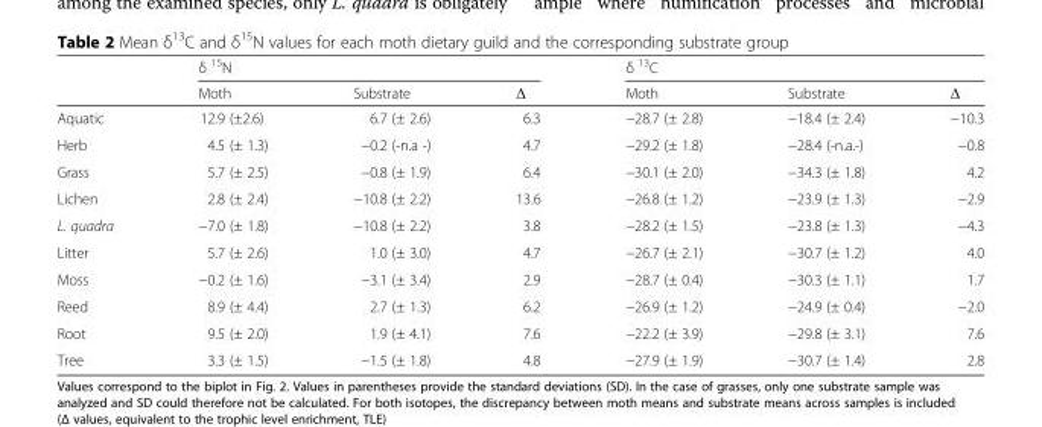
<table><thead><tr><td rowspan="2"></td><td colspan="3">δ <sup>15</sup>N</td><td colspan="3">δ <sup>13</sup>C</td></tr><tr><td>Moth</td><td>Substrate</td><td>Δ</td><td>Moth</td><td>Substrate</td><td>Δ</td></tr></thead><tbody><tr><td>Aquatic</td><td>12.9 (±2.6)</td><td>6.7 (± 2.6)</td><td>6.3</td><td>−28.7 (± 2.8)</td><td>−18.4 (± 2.4)</td><td>−10.3</td></tr><tr><td>Herb</td><td>4.5 (± 1.3)</td><td>−0.2 (-n.a -)</td><td>4.7</td><td>−29.2 (± 1.8)</td><td>−28.4 (-n.a.-)</td><td>−0.8</td></tr><tr><td>Grass</td><td>5.7 (± 2.5)</td><td>−0.8 (± 1.9)</td><td>6.4</td><td>−30.1 (± 2.0)</td><td>−34.3 (± 1.8)</td><td>4.2</td></tr><tr><td>Lichen</td><td>2.8 (± 2.4)</td><td>−10.8 (± 2.2)</td><td>13.6</td><td>−26.8 (± 1.2)</td><td>−23.9 (± 1.3)</td><td>−2.9</td></tr><tr><td>L. quadra</td><td>−7.0 (± 1.8)</td><td>−10.8 (± 2.2)</td><td>3.8</td><td>−28.2 (± 1.5)</td><td>−23.8 (± 1.3)</td><td>−4.3</td></tr><tr><td>Litter</td><td>5.7 (± 2.6)</td><td>1.0 (± 3.0)</td><td>4.7</td><td>−26.7 (± 2.1)</td><td>−30.7 (± 1.2)</td><td>4.0</td></tr><tr><td>Moss</td><td>−0.2 (± 1.6)</td><td>−3.1 (± 3.4)</td><td>2.9</td><td>−28.7 (± 0.4)</td><td>−30.3 (± 1.1)</td><td>1.7</td></tr><tr><td>Reed</td><td>8.9 (± 4.4)</td><td>2.7 (± 1.3)</td><td>6.2</td><td>−26.9 (± 1.2)</td><td>−24.9 (± 0.4)</td><td>−2.0</td></tr><tr><td>Root</td><td>9.5 (± 2.0)</td><td>1.9 (± 4.1)</td><td>7.6</td><td>−22.2 (± 3.9)</td><td>−29.8 (± 3.1)</td><td>7.6</td></tr><tr><td>Tree</td><td>3.3 (± 1.5)</td><td>−1.5 (± 1.8)</td><td>4.8</td><td>−27.9 (± 1.9)</td><td>−30.7 (± 1.4)</td><td>2.8</td></tr></tbody></table>